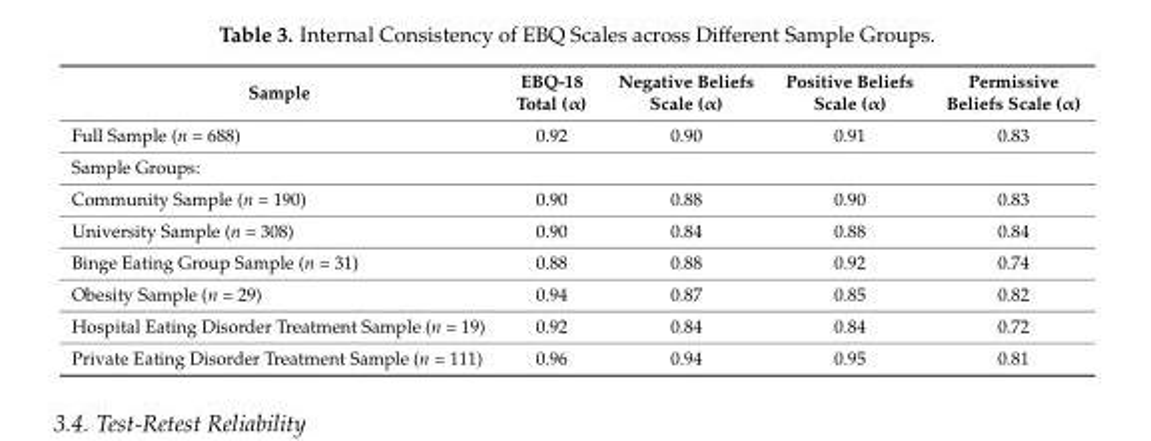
<table><thead><tr><td>Sample</td><td>EBQ-18 Total (α)</td><td>Negative Beliefs Scale (α)</td><td>Positive Beliefs Scale (α)</td><td>Permissive Beliefs Scale (α)</td></tr></thead><tbody><tr><td>Full Sample (n = 688)</td><td>0.92</td><td>0.90</td><td>0.91</td><td>0.83</td></tr><tr><td colspan="5">Sample Groups:</td></tr><tr><td>Community Sample (n = 190)</td><td>0.90</td><td>0.88</td><td>0.90</td><td>0.83</td></tr><tr><td>University Sample (n = 308)</td><td>0.90</td><td>0.84</td><td>0.88</td><td>0.84</td></tr><tr><td>Binge Eating Group Sample (n = 31)</td><td>0.88</td><td>0.88</td><td>0.92</td><td>0.74</td></tr><tr><td>Obesity Sample (n = 29)</td><td>0.94</td><td>0.87</td><td>0.85</td><td>0.82</td></tr><tr><td>Hospital Eating Disorder Treatment Sample (n = 19)</td><td>0.92</td><td>0.84</td><td>0.84</td><td>0.72</td></tr><tr><td>Private Eating Disorder Treatment Sample (n = 111)</td><td>0.96</td><td>0.94</td><td>0.95</td><td>0.81</td></tr></tbody></table>